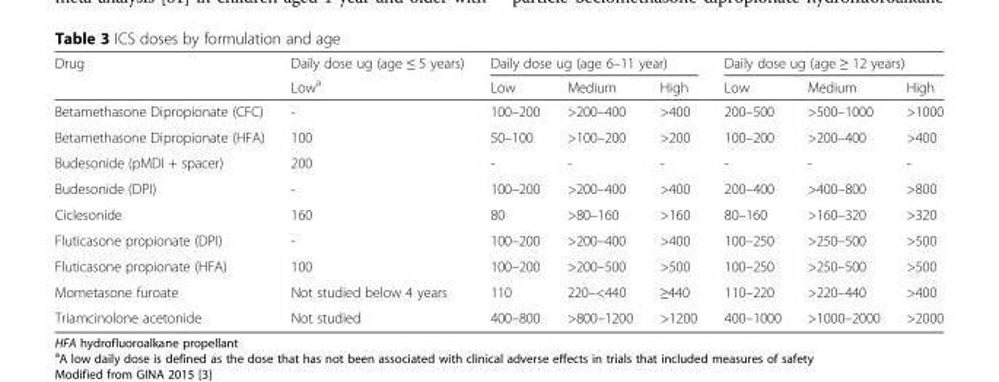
<table><thead><tr><td rowspan="2">Drug</td><td rowspan="2">Daily dose ug (age ≤ 5 years) Low<sup>a</sup></td><td colspan="3">Daily dose ug (age 6–11 year)</td><td colspan="3">Daily dose ug (age ≥ 12 years)</td></tr><tr><td>Low</td><td>Medium</td><td>High</td><td>Low</td><td>Medium</td><td>High</td></tr></thead><tbody><tr><td>Betamethasone Dipropionate (CFC)</td><td>-</td><td>100–200</td><td>&gt;200–400</td><td>&gt;400</td><td>200–500</td><td>&gt;500–1000</td><td>&gt;1000</td></tr><tr><td>Betamethasone Dipropionate (HFA)</td><td>100</td><td>50–100</td><td>&gt;100–200</td><td>&gt;200</td><td>100–200</td><td>&gt;200–400</td><td>&gt;400</td></tr><tr><td>Budesonide (pMDI + spacer)</td><td>200</td><td>-</td><td>-</td><td>-</td><td>-</td><td>-</td><td>-</td></tr><tr><td>Budesonide (DPI)</td><td>-</td><td>100–200</td><td>&gt;200–400</td><td>&gt;400</td><td>200–400</td><td>&gt;400–800</td><td>&gt;800</td></tr><tr><td>Ciclesonide</td><td>160</td><td>80</td><td>&gt;80–160</td><td>&gt;160</td><td>80–160</td><td>&gt;160–320</td><td>&gt;320</td></tr><tr><td>Fluticasone propionate (DPI)</td><td>-</td><td>100–200</td><td>&gt;200–400</td><td>&gt;400</td><td>100–250</td><td>&gt;250–500</td><td>&gt;500</td></tr><tr><td>Fluticasone propionate (HFA)</td><td>100</td><td>100–200</td><td>&gt;200–500</td><td>&gt;500</td><td>100–250</td><td>&gt;250–500</td><td>&gt;500</td></tr><tr><td>Mometasone furoate</td><td>Not studied below 4 years</td><td>110</td><td>220–&lt;440</td><td>≥440</td><td>110–220</td><td>&gt;220–440</td><td>&gt;400</td></tr><tr><td>Triamcinolone acetonide</td><td>Not studied</td><td>400–800</td><td>&gt;800–1200</td><td>&gt;1200</td><td>400–1000</td><td>&gt;1000–2000</td><td>&gt;2000</td></tr></tbody></table>